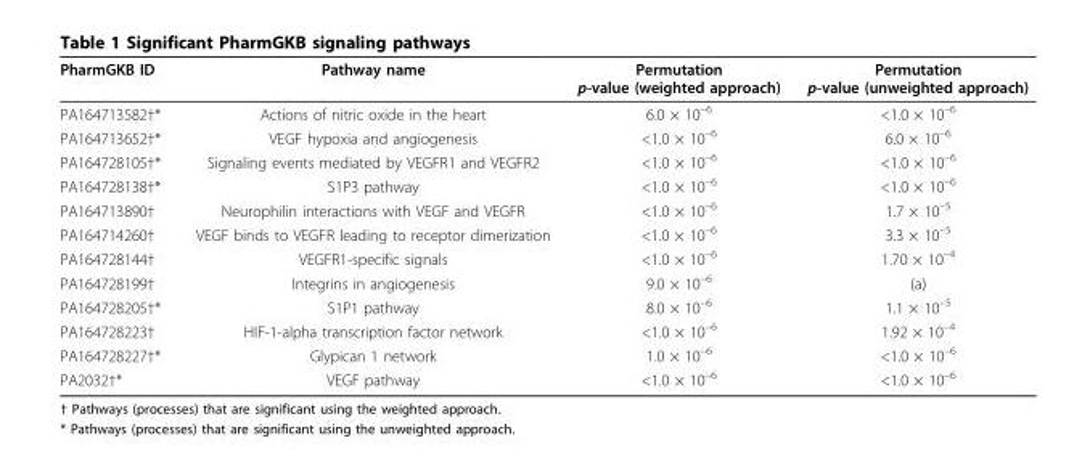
<table><thead><tr><td>PharmGKB ID</td><td>Pathway name</td><td>Permutation p-value (weighted approach)</td><td>Permutation p-value (unweighted approach)</td></tr></thead><tbody><tr><td>PA164713582†*</td><td>Actions of nitric oxide in the heart</td><td>6.0 × 10<sup>–6</sup></td><td>&lt;1.0 × 10<sup>–6</sup></td></tr><tr><td>PA164713652†*</td><td>VEGF hypoxia and angiogenesis</td><td>&lt;1.0 × 10<sup>–6</sup></td><td>6.0 × 10<sup>–6</sup></td></tr><tr><td>PA164728105†*</td><td>Signaling events mediated by VEGFR1 and VEGFR2</td><td>&lt;1.0 × 10<sup>–6</sup></td><td>&lt;1.0 × 10<sup>–6</sup></td></tr><tr><td>PA164728138†*</td><td>S1P3 pathway</td><td>&lt;1.0 × 10<sup>–6</sup></td><td>&lt;1.0 × 10<sup>–6</sup></td></tr><tr><td>PA164713890†</td><td>Neurophilin interactions with VEGF and VEGFR</td><td>&lt;1.0 × 10<sup>–6</sup></td><td>1.7 × 10<sup>–5</sup></td></tr><tr><td>PA164714260†</td><td>VEGF binds to VEGFR leading to receptor dimerization</td><td>&lt;1.0 × 10<sup>–6</sup></td><td>3.3 × 10<sup>–5</sup></td></tr><tr><td>PA164728144†</td><td>VEGFR1-specific signals</td><td>&lt;1.0 × 10<sup>–6</sup></td><td>1.70 × 10<sup>–4</sup></td></tr><tr><td>PA164728199†</td><td>Integrins in angiogenesis</td><td>9.0 × 10<sup>–6</sup></td><td>(a)</td></tr><tr><td>PA164728205†*</td><td>S1P1 pathway</td><td>8.0 × 10<sup>–6</sup></td><td>1.1 × 10<sup>–5</sup></td></tr><tr><td>PA164728223†</td><td>HIF-1-alpha transcription factor network</td><td>&lt;1.0 × 10<sup>–6</sup></td><td>1.92 × 10<sup>–4</sup></td></tr><tr><td>PA164728227†*</td><td>Glypican 1 network</td><td>1.0 × 10<sup>–6</sup></td><td>&lt;1.0 × 10<sup>–6</sup></td></tr><tr><td>PA2032†*</td><td>VEGF pathway</td><td>&lt;1.0 × 10<sup>–6</sup></td><td>&lt;1.0 × 10<sup>–6</sup></td></tr></tbody></table>